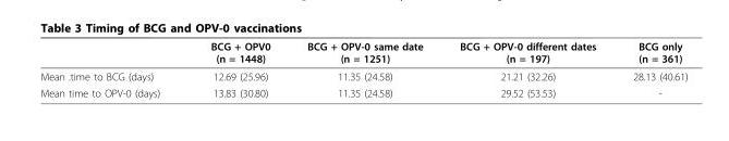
<table><thead><tr><td></td><td>BCG + OPV0 (n = 1448)</td><td>BCG + OPV-0 same date (n = 1251)</td><td>BCG + OPV-0 different dates (n = 197)</td><td>BCG only (n = 361)</td></tr></thead><tbody><tr><td>Mean .time to BCG (days)</td><td>12.69 (25.96)</td><td>11.35 (24.58)</td><td>21.21 (32.26)</td><td>28.13 (40.61)</td></tr><tr><td>Mean time to OPV-0 (days)</td><td>13.83 (30.80)</td><td>11.35 (24.58)</td><td>29.52 (53.53)</td><td>-</td></tr></tbody></table>